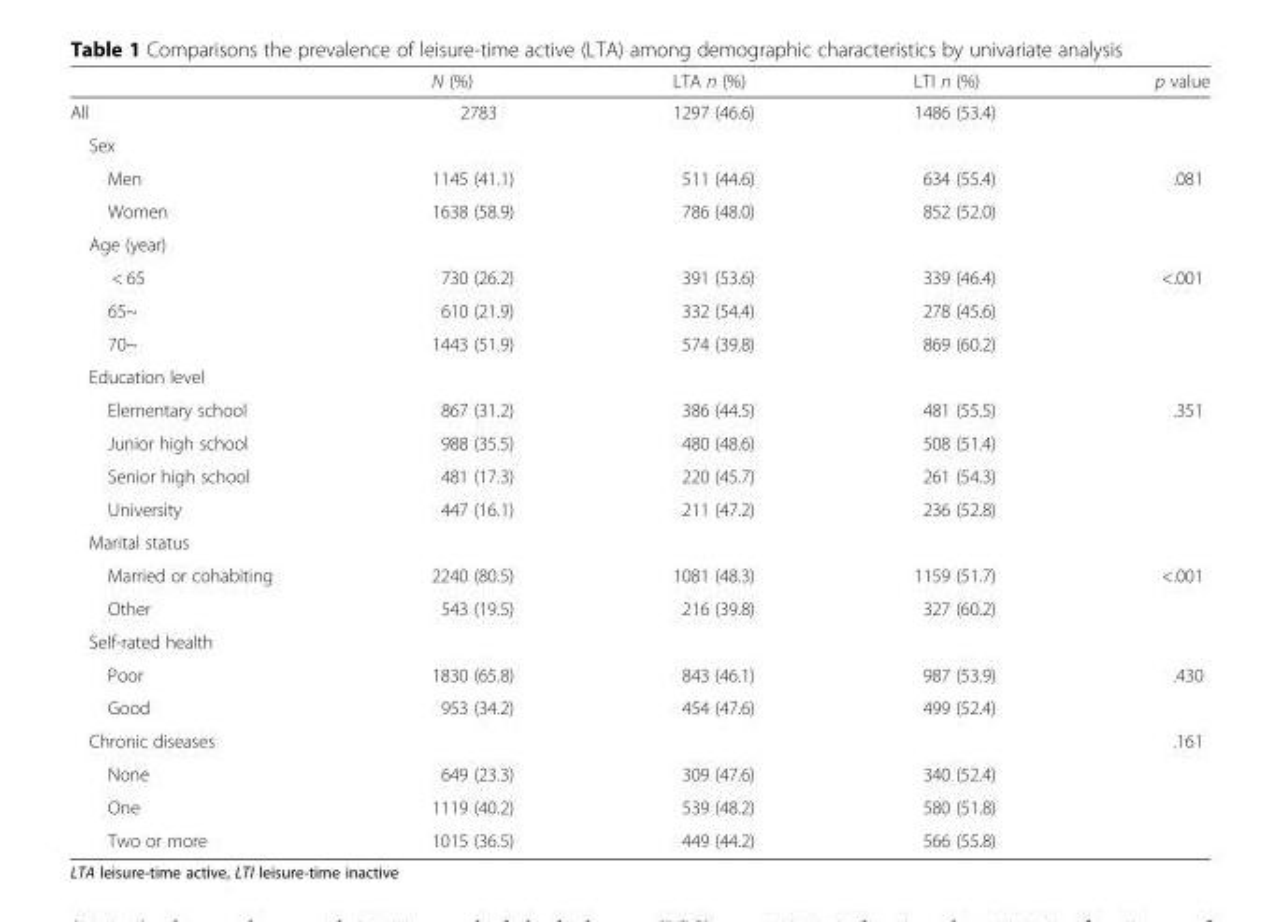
<table><thead><tr><td></td><td>N (%)</td><td>LTA n (%)</td><td>LTI n (%)</td><td>p value</td></tr></thead><tbody><tr><td>All</td><td>2783</td><td>1297 (46.6)</td><td>1486 (53.4)</td><td></td></tr><tr><td colspan="5">Sex</td></tr><tr><td>Men</td><td>1145 (41.1)</td><td>511 (44.6)</td><td>634 (55.4)</td><td rowspan="2">.081</td></tr><tr><td>Women</td><td>1638 (58.9)</td><td>786 (48.0)</td><td>852 (52.0)</td></tr><tr><td colspan="5">Age (year)</td></tr><tr><td>&lt; 65</td><td>730 (26.2)</td><td>391 (53.6)</td><td>339 (46.4)</td><td rowspan="3">&lt;.001</td></tr><tr><td>65~</td><td>610 (21.9)</td><td>332 (54.4)</td><td>278 (45.6)</td></tr><tr><td>70~</td><td>1443 (51.9)</td><td>574 (39.8)</td><td>869 (60.2)</td></tr><tr><td colspan="5">Education level</td></tr><tr><td>Elementary school</td><td>867 (31.2)</td><td>386 (44.5)</td><td>481 (55.5)</td><td rowspan="4">.351</td></tr><tr><td>Junior high school</td><td>988 (35.5)</td><td>480 (48.6)</td><td>508 (51.4)</td></tr><tr><td>Senior high school</td><td>481 (17.3)</td><td>220 (45.7)</td><td>261 (54.3)</td></tr><tr><td>University</td><td>447 (16.1)</td><td>211 (47.2)</td><td>236 (52.8)</td></tr><tr><td colspan="5">Marital status</td></tr><tr><td>Married or cohabiting</td><td>2240 (80.5)</td><td>1081 (48.3)</td><td>1159 (51.7)</td><td rowspan="2">&lt;.001</td></tr><tr><td>Other</td><td>543 (19.5)</td><td>216 (39.8)</td><td>327 (60.2)</td></tr><tr><td colspan="5">Self-rated health</td></tr><tr><td>Poor</td><td>1830 (65.8)</td><td>843 (46.1)</td><td>987 (53.9)</td><td rowspan="2">.430</td></tr><tr><td>Good</td><td>953 (34.2)</td><td>454 (47.6)</td><td>499 (52.4)</td></tr><tr><td colspan="4">Chronic diseases</td><td rowspan="4">.161</td></tr><tr><td>None</td><td>649 (23.3)</td><td>309 (47.6)</td><td>340 (52.4)</td></tr><tr><td>One</td><td>1119 (40.2)</td><td>539 (48.2)</td><td>580 (51.8)</td></tr><tr><td>Two or more</td><td>1015 (36.5)</td><td>449 (44.2)</td><td>566 (55.8)</td></tr></tbody></table>